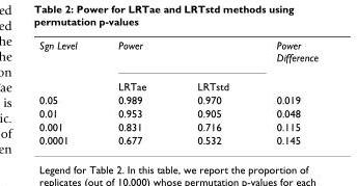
<table><tbody><tr><td rowspan="2">Sgn Level</td><td colspan="2">Power</td><td>Power Difference</td></tr><tr><td>LRTae</td><td>LRTstd</td><td></td></tr><tr><td>0.05</td><td>0.989</td><td>0.970</td><td>0.019</td></tr><tr><td>0.01</td><td>0.953</td><td>0.905</td><td>0.048</td></tr><tr><td>0.001</td><td>0.831</td><td>0.716</td><td>0.115</td></tr><tr><td>0.0001</td><td>0.677</td><td>0.532</td><td>0.145</td></tr></tbody></table>